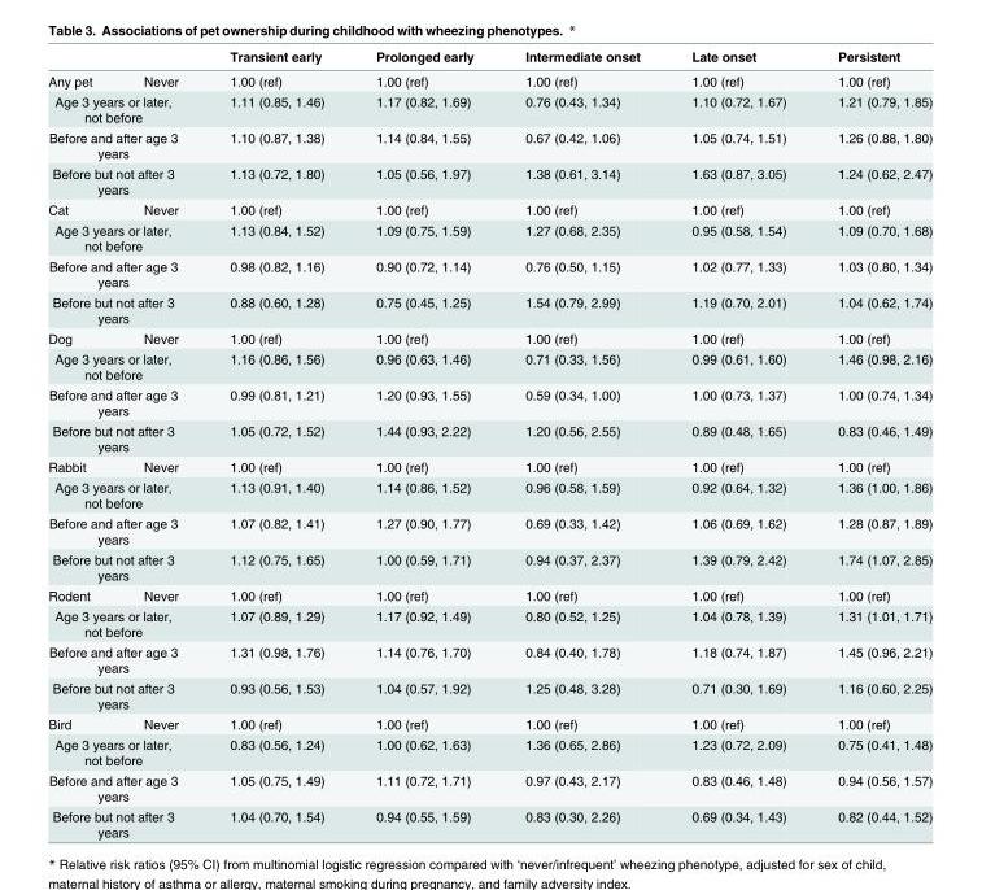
<table><thead><tr><td></td><td></td><td>Transient early</td><td>Prolonged early</td><td>Intermediate onset</td><td>Late onset</td><td>Persistent</td></tr></thead><tbody><tr><td>Any pet</td><td>Never</td><td>1.00 (ref)</td><td>1.00 (ref)</td><td>1.00 (ref)</td><td>1.00 (ref)</td><td>1.00 (ref)</td></tr><tr><td colspan="2">Age 3 years or later, not before</td><td>1.11 (0.85, 1.46)</td><td>1.17 (0.82, 1.69)</td><td>0.76 (0.43, 1.34)</td><td>1.10 (0.72, 1.67)</td><td>1.21 (0.79, 1.85)</td></tr><tr><td colspan="2">Before and after age 3 years</td><td>1.10 (0.87, 1.38)</td><td>1.14 (0.84, 1.55)</td><td>0.67 (0.42, 1.06)</td><td>1.05 (0.74, 1.51)</td><td>1.26 (0.88, 1.80)</td></tr><tr><td colspan="2">Before but not after 3 years</td><td>1.13 (0.72, 1.80)</td><td>1.05 (0.56, 1.97)</td><td>1.38 (0.61, 3.14)</td><td>1.63 (0.87, 3.05)</td><td>1.24 (0.62, 2.47)</td></tr><tr><td>Cat</td><td>Never</td><td>1.00 (ref)</td><td>1.00 (ref)</td><td>1.00 (ref)</td><td>1.00 (ref)</td><td>1.00 (ref)</td></tr><tr><td colspan="2">Age 3 years or later, not before</td><td>1.13 (0.84, 1.52)</td><td>1.09 (0.75, 1.59)</td><td>1.27 (0.68, 2.35)</td><td>0.95 (0.58, 1.54)</td><td>1.09 (0.70, 1.68)</td></tr><tr><td colspan="2">Before and after age 3 years</td><td>0.98 (0.82, 1.16)</td><td>0.90 (0.72, 1.14)</td><td>0.76 (0.50, 1.15)</td><td>1.02 (0.77, 1.33)</td><td>1.03 (0.80, 1.34)</td></tr><tr><td colspan="2">Before but not after 3 years</td><td>0.88 (0.60, 1.28)</td><td>0.75 (0.45, 1.25)</td><td>1.54 (0.79, 2.99)</td><td>1.19 (0.70, 2.01)</td><td>1.04 (0.62, 1.74)</td></tr><tr><td>Dog</td><td>Never</td><td>1.00 (ref)</td><td>1.00 (ref)</td><td>1.00 (ref)</td><td>1.00 (ref)</td><td>1.00 (ref)</td></tr><tr><td colspan="2">Age 3 years or later, not before</td><td>1.16 (0.86, 1.56)</td><td>0.96 (0.63, 1.46)</td><td>0.71 (0.33, 1.56)</td><td>0.99 (0.61, 1.60)</td><td>1.46 (0.98, 2.16)</td></tr><tr><td colspan="2">Before and after age 3 years</td><td>0.99 (0.81, 1.21)</td><td>1.20 (0.93, 1.55)</td><td>0.59 (0.34, 1.00)</td><td>1.00 (0.73, 1.37)</td><td>1.00 (0.74, 1.34)</td></tr><tr><td colspan="2">Before but not after 3 years</td><td>1.05 (0.72, 1.52)</td><td>1.44 (0.93, 2.22)</td><td>1.20 (0.56, 2.55)</td><td>0.89 (0.48, 1.65)</td><td>0.83 (0.46, 1.49)</td></tr><tr><td>Rabbit</td><td>Never</td><td>1.00 (ref)</td><td>1.00 (ref)</td><td>1.00 (ref)</td><td>1.00 (ref)</td><td>1.00 (ref)</td></tr><tr><td colspan="2">Age 3 years or later, not before</td><td>1.13 (0.91, 1.40)</td><td>1.14 (0.86, 1.52)</td><td>0.96 (0.58, 1.59)</td><td>0.92 (0.64, 1.32)</td><td>1.36 (1.00, 1.86)</td></tr><tr><td colspan="2">Before and after age 3 years</td><td>1.07 (0.82, 1.41)</td><td>1.27 (0.90, 1.77)</td><td>0.69 (0.33, 1.42)</td><td>1.06 (0.69, 1.62)</td><td>1.28 (0.87, 1.89)</td></tr><tr><td colspan="2">Before but not after 3 years</td><td>1.12 (0.75, 1.65)</td><td>1.00 (0.59, 1.71)</td><td>0.94 (0.37, 2.37)</td><td>1.39 (0.79, 2.42)</td><td>1.74 (1.07, 2.85)</td></tr><tr><td>Rodent</td><td>Never</td><td>1.00 (ref)</td><td>1.00 (ref)</td><td>1.00 (ref)</td><td>1.00 (ref)</td><td>1.00 (ref)</td></tr><tr><td colspan="2">Age 3 years or later, not before</td><td>1.07 (0.89, 1.29)</td><td>1.17 (0.92, 1.49)</td><td>0.80 (0.52, 1.25)</td><td>1.04 (0.78, 1.39)</td><td>1.31 (1.01, 1.71)</td></tr><tr><td colspan="2">Before and after age 3 years</td><td>1.31 (0.98, 1.76)</td><td>1.14 (0.76, 1.70)</td><td>0.84 (0.40, 1.78)</td><td>1.18 (0.74, 1.87)</td><td>1.45 (0.96, 2.21)</td></tr><tr><td colspan="2">Before but not after 3 years</td><td>0.93 (0.56, 1.53)</td><td>1.04 (0.57, 1.92)</td><td>1.25 (0.48, 3.28)</td><td>0.71 (0.30, 1.69)</td><td>1.16 (0.60, 2.25)</td></tr><tr><td>Bird</td><td>Never</td><td>1.00 (ref)</td><td>1.00 (ref)</td><td>1.00 (ref)</td><td>1.00 (ref)</td><td>1.00 (ref)</td></tr><tr><td colspan="2">Age 3 years or later, not before</td><td>0.83 (0.56, 1.24)</td><td>1.00 (0.62, 1.63)</td><td>1.36 (0.65, 2.86)</td><td>1.23 (0.72, 2.09)</td><td>0.75 (0.41, 1.48)</td></tr><tr><td colspan="2">Before and after age 3 years</td><td>1.05 (0.75, 1.49)</td><td>1.11 (0.72, 1.71)</td><td>0.97 (0.43, 2.17)</td><td>0.83 (0.46, 1.48)</td><td>0.94 (0.56, 1.57)</td></tr><tr><td colspan="2">Before but not after 3 years</td><td>1.04 (0.70, 1.54)</td><td>0.94 (0.55, 1.59)</td><td>0.83 (0.30, 2.26)</td><td>0.69 (0.34, 1.43)</td><td>0.82 (0.44, 1.52)</td></tr></tbody></table>